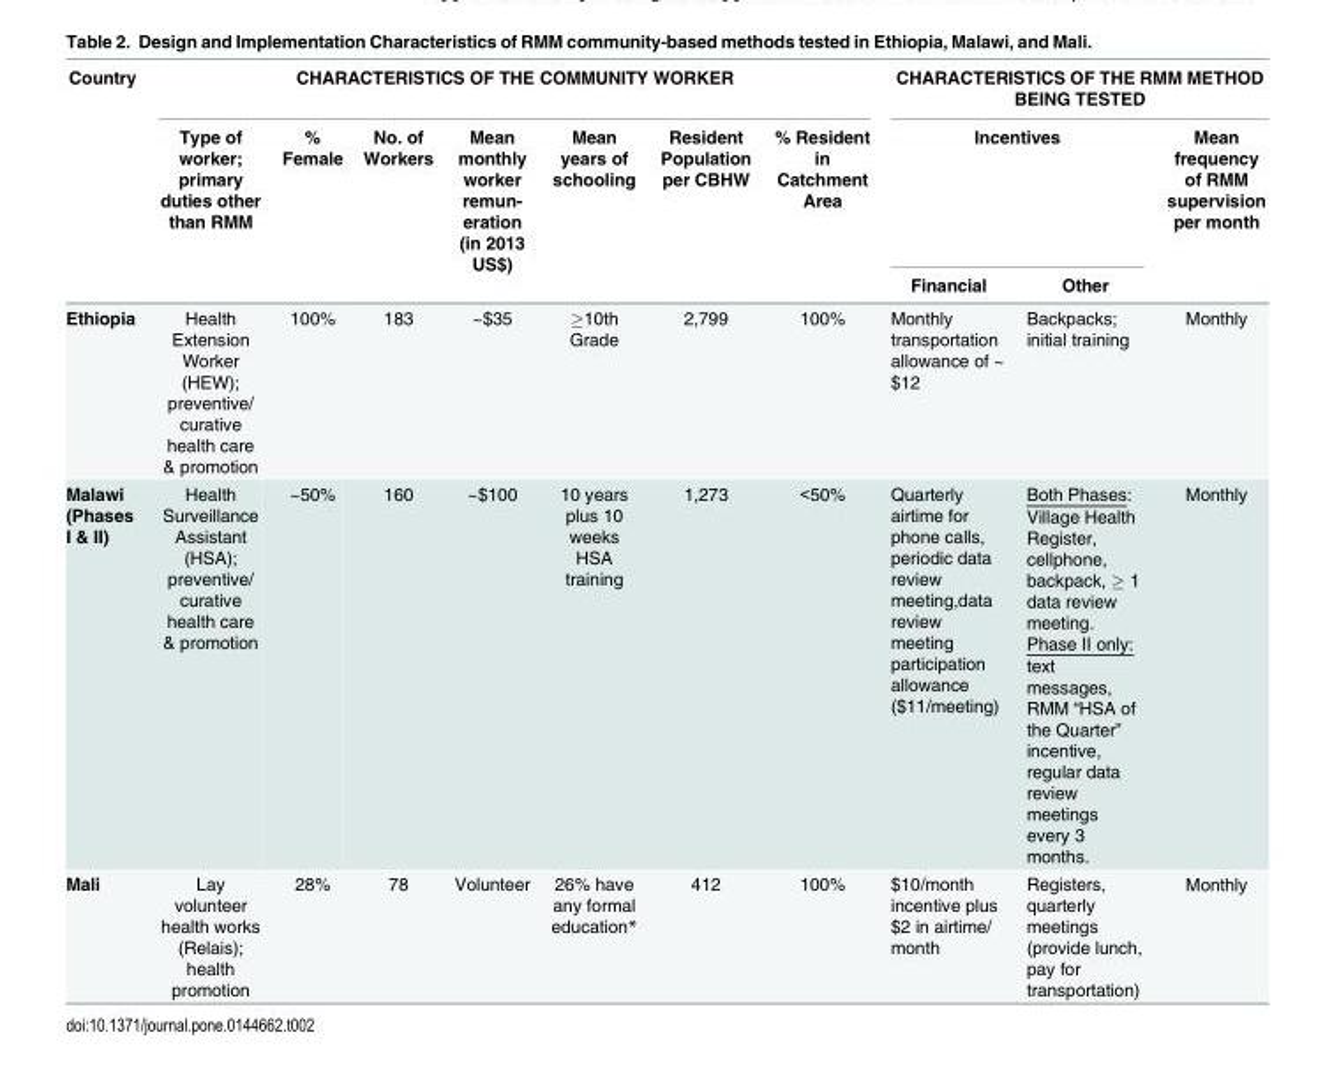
<table><thead><tr><td rowspan="3">Country</td><td colspan="7">CHARACTERISTICS OF THE COMMUNITY WORKER</td><td colspan="3">CHARACTERISTICS OF THE RMM METHOD BEING TESTED</td></tr><tr><td rowspan="2">Type of worker; primary duties other than RMM</td><td rowspan="2">% Female</td><td rowspan="2">No. of Workers</td><td rowspan="2">Mean monthly worker remun- eration (in 2013 US$)</td><td rowspan="2">Mean years of schooling</td><td rowspan="2">Resident Population per CBHW</td><td rowspan="2">% Resident in Catchment Area</td><td colspan="2">Incentives</td><td rowspan="2">Mean frequency of RMM supervision per month</td></tr><tr><td>Financial</td><td>Other</td></tr></thead><tbody><tr><td>Ethiopia</td><td>Health Extension Worker (HEW); preventive/ curative health care &amp; promotion</td><td>100%</td><td>183</td><td>~$35</td><td>≥10th Grade</td><td>2,799</td><td>100%</td><td>Monthly transportation allowance of ~ $12</td><td>Backpacks; initial training</td><td>Monthly</td></tr><tr><td>Malawi (Phases I &amp; II)</td><td>Health Surveillance Assistant (HSA); preventive/ curative health care &amp; promotion</td><td>~50%</td><td>160</td><td>~$100</td><td>10 years plus 10 weeks HSA training</td><td>1,273</td><td>&lt;50%</td><td>Quarterly airtime for phone calls, periodic data review meeting,data review meeting participation allowance ($11/meeting)</td><td>Both Phases: Village Health Register, cellphone, backpack, ≥ 1 data review meeting. Phase II only: text messages, RMM “HSA of the Quarter” incentive, regular data review meetings every 3 months.</td><td>Monthly</td></tr><tr><td>Mali</td><td>Lay volunteer health works (Relais); health promotion</td><td>28%</td><td>78</td><td>Volunteer</td><td>26% have any formal education*</td><td>412</td><td>100%</td><td>$10/month incentive plus $2 in airtime/ month</td><td>Registers, quarterly meetings (provide lunch, pay for transportation)</td><td>Monthly</td></tr></tbody></table>